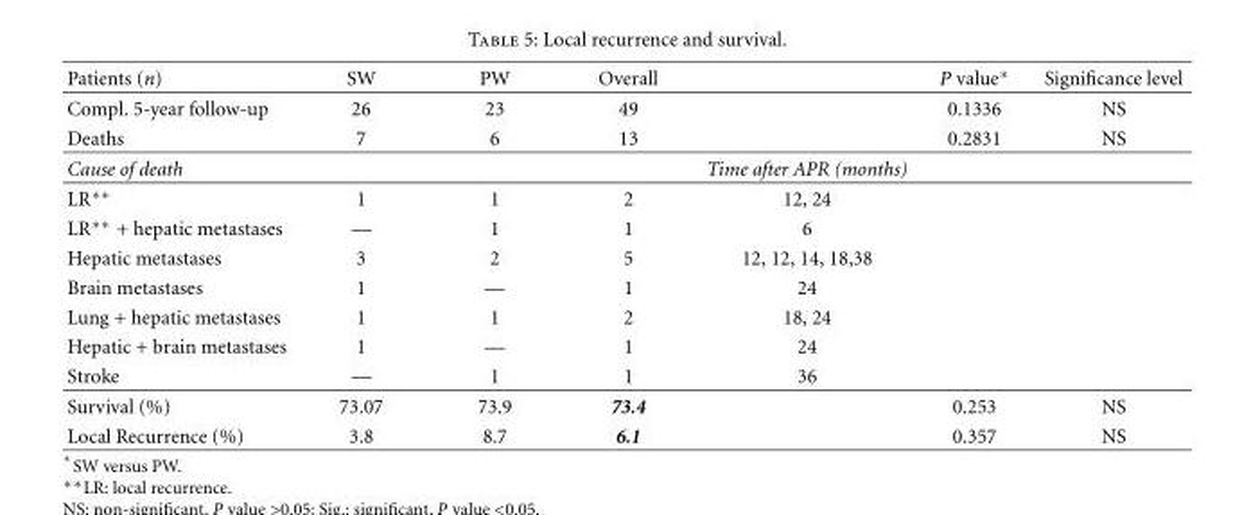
<table><thead><tr><td>Patients (n)</td><td>SW</td><td>PW</td><td>Overall</td><td></td><td>P value∗</td><td>Significance level</td></tr></thead><tbody><tr><td>Compl. 5-year follow-up</td><td>26</td><td>23</td><td>49</td><td></td><td>0.1336</td><td>NS</td></tr><tr><td>Deaths</td><td>7</td><td>6</td><td>13</td><td></td><td>0.2831</td><td>NS</td></tr><tr><td>Cause of death</td><td></td><td></td><td></td><td>Time after APR (months)</td><td></td><td></td></tr><tr><td>LR∗∗</td><td>1</td><td>1</td><td>2</td><td>12, 24</td><td></td><td></td></tr><tr><td>LR∗∗ + hepatic metastases</td><td>—</td><td>1</td><td>1</td><td>6</td><td></td><td></td></tr><tr><td>Hepatic metastases</td><td>3</td><td>2</td><td>5</td><td>12, 12, 14, 18,38</td><td></td><td></td></tr><tr><td>Brain metastases</td><td>1</td><td>—</td><td>1</td><td>24</td><td></td><td></td></tr><tr><td>Lung + hepatic metastases</td><td>1</td><td>1</td><td>2</td><td>18, 24</td><td></td><td></td></tr><tr><td>Hepatic + brain metastases</td><td>1</td><td>—</td><td>1</td><td>24</td><td></td><td></td></tr><tr><td>Stroke</td><td>—</td><td>1</td><td>1</td><td>36</td><td></td><td></td></tr><tr><td>Survival (%)</td><td>73.07</td><td>73.9</td><td>73.4</td><td></td><td>0.253</td><td>NS</td></tr><tr><td>Local Recurrence (%)</td><td>3.8</td><td>8.7</td><td>6.1</td><td></td><td>0.357</td><td>NS</td></tr></tbody></table>